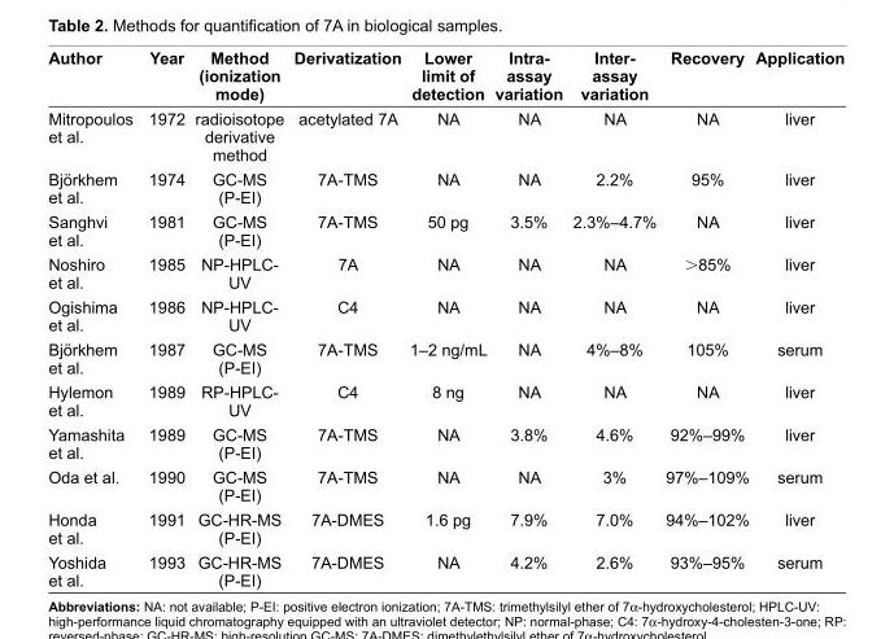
<table><thead><tr><td>Author</td><td>Year</td><td>Method (ionization mode)</td><td>Derivatization</td><td>Lower limit of detection</td><td>Intra- assay variation</td><td>Inter- assay variation</td><td>Recovery</td><td>Application</td></tr></thead><tbody><tr><td>Mitropoulos et al.</td><td>1972</td><td>radioisotope derivative method</td><td>acetylated 7A</td><td>NA</td><td>NA</td><td>NA</td><td>NA</td><td>liver</td></tr><tr><td>Björkhem et al.</td><td>1974</td><td>GC-MS (P-EI)</td><td>7A-TMS</td><td>NA</td><td>NA</td><td>2.2%</td><td>95%</td><td>liver</td></tr><tr><td>Sanghvi et al.</td><td>1981</td><td>GC-MS (P-EI)</td><td>7A-TMS</td><td>50 pg</td><td>3.5%</td><td>2.3%–4.7%</td><td>NA</td><td>liver</td></tr><tr><td>Noshiro et al.</td><td>1985</td><td>NP-HPLC- UV</td><td>7A</td><td>NA</td><td>NA</td><td>NA</td><td>385%</td><td>liver</td></tr><tr><td>Ogishima et al.</td><td>1986</td><td>NP-HPLC- UV</td><td>C4</td><td>NA</td><td>NA</td><td>NA</td><td>NA</td><td>liver</td></tr><tr><td>Björkhem et al.</td><td>1987</td><td>GC-MS (P-EI)</td><td>7A-TMS</td><td>1–2 ng/mL</td><td>NA</td><td>4%–8%</td><td>105%</td><td>serum</td></tr><tr><td>Hylemon et al.</td><td>1989</td><td>RP-HPLC- UV</td><td>C4</td><td>8 ng</td><td>NA</td><td>NA</td><td>NA</td><td>liver</td></tr><tr><td>Yamashita et al.</td><td>1989</td><td>GC-MS (P-EI)</td><td>7A-TMS</td><td>NA</td><td>3.8%</td><td>4.6%</td><td>92%–99%</td><td>liver</td></tr><tr><td>Oda et al.</td><td>1990</td><td>GC-MS (P-EI)</td><td>7A-TMS</td><td>NA</td><td>NA</td><td>3%</td><td>97%–109%</td><td>serum</td></tr><tr><td>Honda et al.</td><td>1991</td><td>GC-HR-MS (P-EI)</td><td>7A-DMES</td><td>1.6 pg</td><td>7.9%</td><td>7.0%</td><td>94%–102%</td><td>liver</td></tr><tr><td>Yoshida et al.</td><td>1993</td><td>GC-HR-MS (P-EI)</td><td>7A-DMES</td><td>NA</td><td>4.2%</td><td>2.6%</td><td>93%–95%</td><td>serum</td></tr></tbody></table>